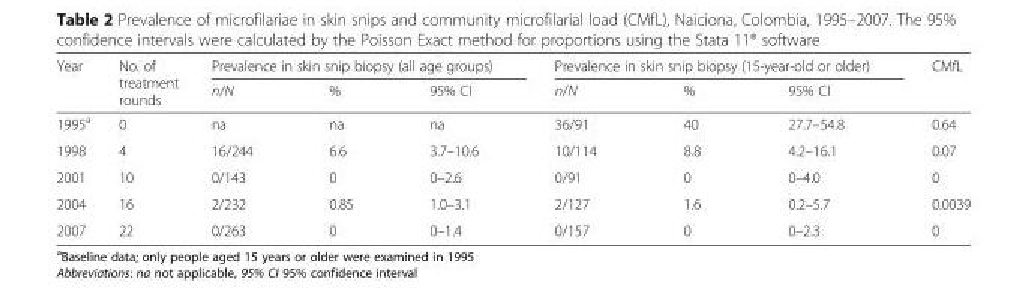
<table><thead><tr><td rowspan="2">Year</td><td rowspan="2">No. of treatment rounds</td><td colspan="3">Prevalence in skin snip biopsy (all age groups)</td><td colspan="3">Prevalence in skin snip biopsy (15-year-old or older)</td><td rowspan="2">CMfL</td></tr><tr><td>n/N</td><td>%</td><td>95% CI</td><td>n/N</td><td>%</td><td>95% CI</td></tr></thead><tbody><tr><td>1995<sup>a</sup></td><td>0</td><td>na</td><td>na</td><td>na</td><td>36/91</td><td>40</td><td>27.7–54.8</td><td>0.64</td></tr><tr><td>1998</td><td>4</td><td>16/244</td><td>6.6</td><td>3.7–10.6</td><td>10/114</td><td>8.8</td><td>4.2–16.1</td><td>0.07</td></tr><tr><td>2001</td><td>10</td><td>0/143</td><td>0</td><td>0–2.6</td><td>0/91</td><td>0</td><td>0–4.0</td><td>0</td></tr><tr><td>2004</td><td>16</td><td>2/232</td><td>0.85</td><td>1.0–3.1</td><td>2/127</td><td>1.6</td><td>0.2–5.7</td><td>0.0039</td></tr><tr><td>2007</td><td>22</td><td>0/263</td><td>0</td><td>0–1.4</td><td>0/157</td><td>0</td><td>0–2.3</td><td>0</td></tr></tbody></table>